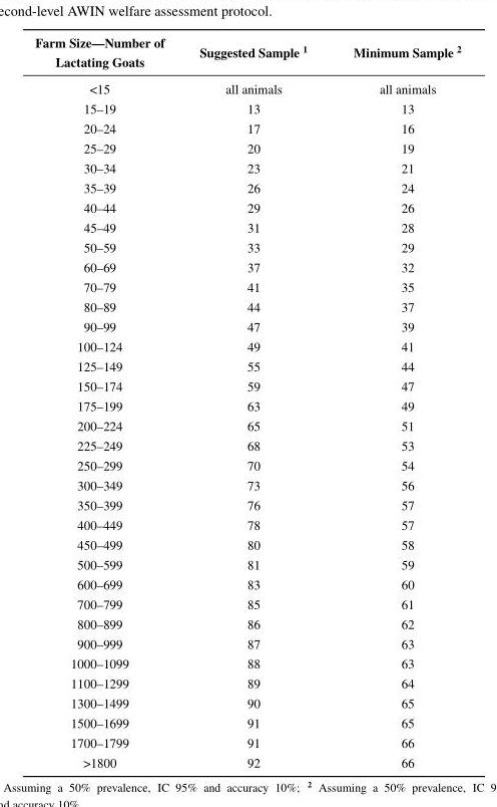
<table><thead><tr><td>Farm Size—Number of Lactating Goats</td><td>Suggested Sample <sup>1</sup></td><td>Minimum Sample <sup>2</sup></td></tr></thead><tbody><tr><td>&lt;15</td><td>all animals</td><td>all animals</td></tr><tr><td>15–19</td><td>13</td><td>13</td></tr><tr><td>20–24</td><td>17</td><td>16</td></tr><tr><td>25–29</td><td>20</td><td>19</td></tr><tr><td>30–34</td><td>23</td><td>21</td></tr><tr><td>35–39</td><td>26</td><td>24</td></tr><tr><td>40–44</td><td>29</td><td>26</td></tr><tr><td>45–49</td><td>31</td><td>28</td></tr><tr><td>50–59</td><td>33</td><td>29</td></tr><tr><td>60–69</td><td>37</td><td>32</td></tr><tr><td>70–79</td><td>41</td><td>35</td></tr><tr><td>80–89</td><td>44</td><td>37</td></tr><tr><td>90–99</td><td>47</td><td>39</td></tr><tr><td>100–124</td><td>49</td><td>41</td></tr><tr><td>125–149</td><td>55</td><td>44</td></tr><tr><td>150–174</td><td>59</td><td>47</td></tr><tr><td>175–199</td><td>63</td><td>49</td></tr><tr><td>200–224</td><td>65</td><td>51</td></tr><tr><td>225–249</td><td>68</td><td>53</td></tr><tr><td>250–299</td><td>70</td><td>54</td></tr><tr><td>300–349</td><td>73</td><td>56</td></tr><tr><td>350–399</td><td>76</td><td>57</td></tr><tr><td>400–449</td><td>78</td><td>57</td></tr><tr><td>450–499</td><td>80</td><td>58</td></tr><tr><td>500–599</td><td>81</td><td>59</td></tr><tr><td>600–699</td><td>83</td><td>60</td></tr><tr><td>700–799</td><td>85</td><td>61</td></tr><tr><td>800–899</td><td>86</td><td>62</td></tr><tr><td>900–999</td><td>87</td><td>63</td></tr><tr><td>1000–1099</td><td>88</td><td>63</td></tr><tr><td>1100–1299</td><td>89</td><td>64</td></tr><tr><td>1300–1499</td><td>90</td><td>65</td></tr><tr><td>1500–1699</td><td>91</td><td>65</td></tr><tr><td>1700–1799</td><td>91</td><td>66</td></tr><tr><td>&gt;1800</td><td>92</td><td>66</td></tr></tbody></table>